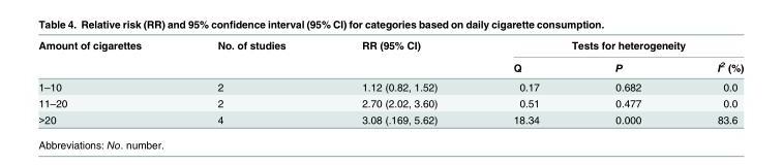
<table><thead><tr><td rowspan="2">Amount of cigarettes</td><td rowspan="2">No. of studies</td><td rowspan="2">RR (95% CI)</td><td colspan="3">Tests for heterogeneity</td></tr><tr><td>Q</td><td>P</td><td>I<sup>2</sup> (%)</td></tr></thead><tbody><tr><td>1–10</td><td>2</td><td>1.12 (0.82, 1.52)</td><td>0.17</td><td>0.682</td><td>0.0</td></tr><tr><td>11–20</td><td>2</td><td>2.70 (2.02, 3.60)</td><td>0.51</td><td>0.477</td><td>0.0</td></tr><tr><td>&gt;20</td><td>4</td><td>3.08 (.169, 5.62)</td><td>18.34</td><td>0.000</td><td>83.6</td></tr></tbody></table>